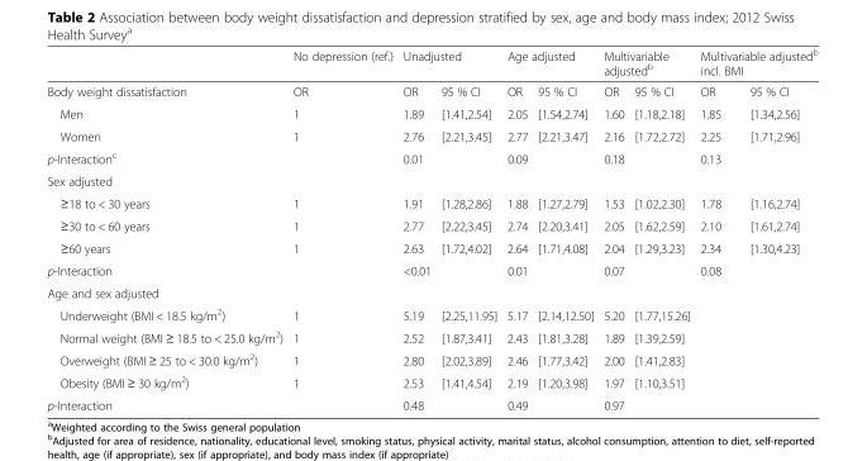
<table><thead><tr><td rowspan="2">Body weight dissatisfaction</td><td rowspan="2">No depression (ref.) OR</td><td colspan="2">Unadjusted</td><td colspan="2">Age adjusted</td><td colspan="2">Multivariable adjusted<sup>b</sup></td><td colspan="2">Multivariable adjusted<sup>b</sup> incl. BMI</td></tr><tr><td>OR</td><td>95 % CI</td><td>OR</td><td>95 % CI</td><td>OR</td><td>95 % CI</td><td>OR</td><td>95 % CI</td></tr></thead><tbody><tr><td>Men</td><td>1</td><td>1.89</td><td>[1.41,2.54]</td><td>2.05</td><td>[1.54,2.74]</td><td>1.60</td><td>[1.18,2.18]</td><td>1.85</td><td>[1.34,2.56]</td></tr><tr><td>Women</td><td>1</td><td>2.76</td><td>[2.21,3.45]</td><td>2.77</td><td>[2.21,3.47]</td><td>2.16</td><td>[1.72,2.72]</td><td>2.25</td><td>[1.71,2.96]</td></tr><tr><td>p-Interaction<sup>c</sup></td><td></td><td>0.01</td><td></td><td>0.09</td><td></td><td>0.18</td><td></td><td>0.13</td><td></td></tr><tr><td colspan="10">Sex adjusted</td></tr><tr><td>≥18 to &lt; 30 years</td><td>1</td><td>1.91</td><td>[1.28,2.86]</td><td>1.88</td><td>[1.27,2.79]</td><td>1.53</td><td>[1.02,2.30]</td><td>1.78</td><td>[1.16,2.74]</td></tr><tr><td>≥30 to &lt; 60 years</td><td>1</td><td>2.77</td><td>[2.22,3.45]</td><td>2.74</td><td>[2.20,3.41]</td><td>2.05</td><td>[1.62,2.59]</td><td>2.10</td><td>[1.61,2.74]</td></tr><tr><td>≥60 years</td><td>1</td><td>2.63</td><td>[1.72,4.02]</td><td>2.64</td><td>[1.71,4.08]</td><td>2.04</td><td>[1.29,3.23]</td><td>2.34</td><td>[1.30,4.23]</td></tr><tr><td>p-Interaction</td><td></td><td>&lt;0.01</td><td></td><td>0.01</td><td></td><td>0.07</td><td></td><td>0.08</td><td></td></tr><tr><td colspan="10">Age and sex adjusted</td></tr><tr><td>Underweight (BMI &lt; 18.5 kg/m<sup>2</sup>)</td><td>1</td><td>5.19</td><td>[2.25,11.95]</td><td>5.17</td><td>[2.14,12.50]</td><td>5.20</td><td>[1.77,15.26]</td><td></td><td></td></tr><tr><td>Normal weight (BMI ≥ 18.5 to &lt; 25.0 kg/m<sup>2</sup>)</td><td>1</td><td>2.52</td><td>[1.87,3.41]</td><td>2.43</td><td>[1.81,3.28]</td><td>1.89</td><td>[1.39,2.59]</td><td></td><td></td></tr><tr><td>Overweight (BMI ≥ 25 to &lt; 30.0 kg/m<sup>2</sup>)</td><td>1</td><td>2.80</td><td>[2.02,3.89]</td><td>2.46</td><td>[1.77,3.42]</td><td>2.00</td><td>[1.41,2.83]</td><td></td><td></td></tr><tr><td>Obesity (BMI ≥ 30 kg/m<sup>2</sup>)</td><td>1</td><td>2.53</td><td>[1.41,4.54]</td><td>2.19</td><td>[1.20,3.98]</td><td>1.97</td><td>[1.10,3.51]</td><td></td><td></td></tr><tr><td>p-Interaction</td><td></td><td>0.48</td><td></td><td>0.49</td><td></td><td>0.97</td><td></td><td></td><td></td></tr></tbody></table>